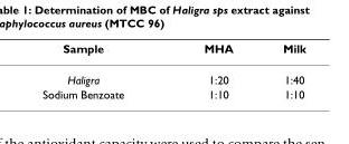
<table><thead><tr><td>Sample</td><td>MHA</td><td>Milk</td></tr></thead><tbody><tr><td>Haligra</td><td>1:20</td><td>1:40</td></tr><tr><td>Sodium Benzoate</td><td>1:10</td><td>1:10</td></tr></tbody></table>